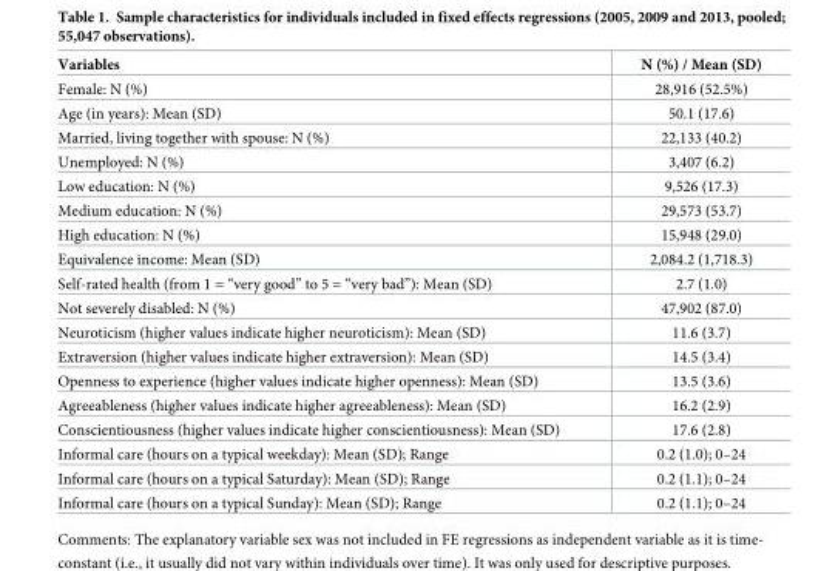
<table><thead><tr><td>Variables</td><td>N (%) / Mean (SD)</td></tr></thead><tbody><tr><td>Female: N (%)</td><td>28,916 (52.5%)</td></tr><tr><td>Age (in years): Mean (SD)</td><td>50.1 (17.6)</td></tr><tr><td>Married, living together with spouse: N (%)</td><td>22,133 (40.2)</td></tr><tr><td>Unemployed: N (%)</td><td>3,407 (6.2)</td></tr><tr><td>Low education: N (%)</td><td>9,526 (17.3)</td></tr><tr><td>Medium education: N (%)</td><td>29,573 (53.7)</td></tr><tr><td>High education: N (%)</td><td>15,948 (29.0)</td></tr><tr><td>Equivalence income: Mean (SD)</td><td>2,084.2 (1,718.3)</td></tr><tr><td>Self-rated health (from 1 = “very good” to 5 = “very bad”): Mean (SD)</td><td>2.7 (1.0)</td></tr><tr><td>Not severely disabled: N (%)</td><td>47,902 (87.0)</td></tr><tr><td>Neuroticism (higher values indicate higher neuroticism): Mean (SD)</td><td>11.6 (3.7)</td></tr><tr><td>Extraversion (higher values indicate higher extraversion): Mean (SD)</td><td>14.5 (3.4)</td></tr><tr><td>Openness to experience (higher values indicate higher openness): Mean (SD)</td><td>13.5 (3.6)</td></tr><tr><td>Agreeableness (higher values indicate higher agreeableness): Mean (SD)</td><td>16.2 (2.9)</td></tr><tr><td>Conscientiousness (higher values indicate higher conscientiousness): Mean (SD)</td><td>17.6 (2.8)</td></tr><tr><td>Informal care (hours on a typical weekday): Mean (SD); Range</td><td>0.2 (1.0); 0–24</td></tr><tr><td>Informal care (hours on a typical Saturday): Mean (SD); Range</td><td>0.2 (1.1); 0–24</td></tr><tr><td>Informal care (hours on a typical Sunday): Mean (SD); Range</td><td>0.2 (1.1); 0–24</td></tr></tbody></table>